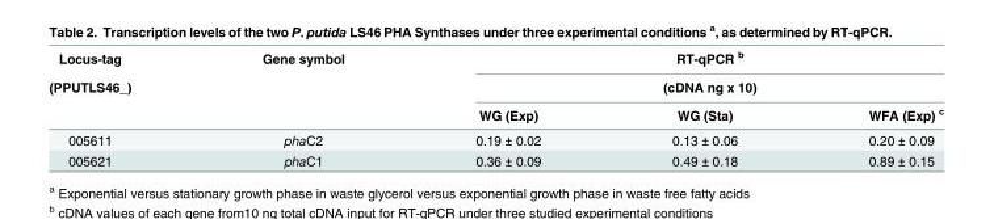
<table><thead><tr><td rowspan="3">Locus-tag (PPUTLS46_)</td><td rowspan="3">Gene symbol</td><td rowspan="2" colspan="3">RT-qPCR <sup>b</sup> (cDNA ng x 10)</td></tr><tr></tr><tr><td>WG (Exp)</td><td>WG (Sta)</td><td>WFA (Exp) <sup>c</sup></td></tr></thead><tbody><tr><td>005611</td><td>phaC2</td><td>0.19 ± 0.02</td><td>0.13 ± 0.06</td><td>0.20 ± 0.09</td></tr><tr><td>005621</td><td>phaC1</td><td>0.36 ± 0.09</td><td>0.49 ± 0.18</td><td>0.89 ± 0.15</td></tr></tbody></table>